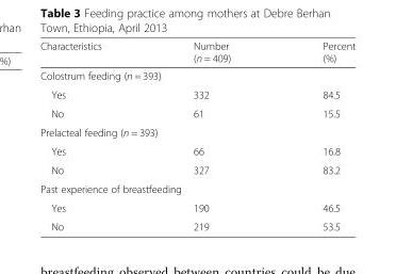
<table><thead><tr><td>Characteristics</td><td>Number (n = 409)</td><td>Percent (%)</td></tr></thead><tbody><tr><td colspan="3">Colostrum feeding (n = 393)</td></tr><tr><td>Yes</td><td>332</td><td>84.5</td></tr><tr><td>No</td><td>61</td><td>15.5</td></tr><tr><td colspan="3">Prelacteal feeding (n = 393)</td></tr><tr><td>Yes</td><td>66</td><td>16.8</td></tr><tr><td>No</td><td>327</td><td>83.2</td></tr><tr><td colspan="3">Past experience of breastfeeding</td></tr><tr><td>Yes</td><td>190</td><td>46.5</td></tr><tr><td>No</td><td>219</td><td>53.5</td></tr></tbody></table>